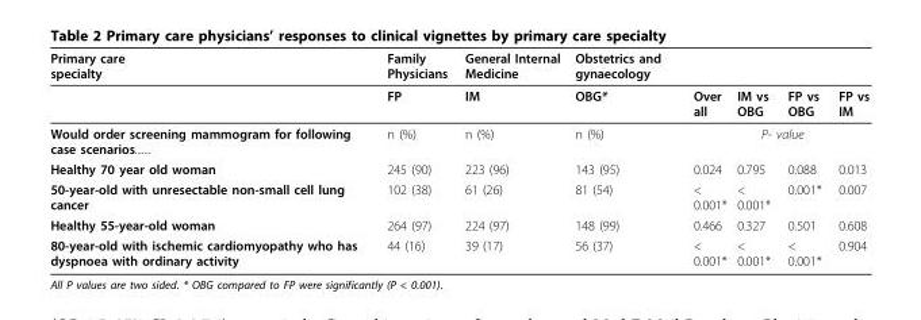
<table><thead><tr><td>Primary care specialty</td><td>Family Physicians</td><td>General Internal Medicine</td><td>Obstetrics and gynaecology</td><td></td><td></td><td></td><td></td></tr></thead><tbody><tr><td></td><td>FP</td><td>IM</td><td>OBG*</td><td>Over all</td><td>IM vs OBG</td><td>FP vs OBG</td><td>FP vs IM</td></tr><tr><td>Would order screening mammogram for following case scenarios.......</td><td>n (%)</td><td>n (%)</td><td>n (%)</td><td colspan="4">P- value</td></tr><tr><td>Healthy 70 year old woman</td><td>245 (90)</td><td>223 (96)</td><td>143 (95)</td><td>0.024</td><td>0.795</td><td>0.088</td><td>0.013</td></tr><tr><td>50-year-old with unresectable non-small cell lung cancer</td><td>102 (38)</td><td>61 (26)</td><td>81 (54)</td><td>&lt; 0.001*</td><td>&lt; 0.001*</td><td>0.001*</td><td>0.007</td></tr><tr><td>Healthy 55-year-old woman</td><td>264 (97)</td><td>224 (97)</td><td>148 (99)</td><td>0.466</td><td>0.327</td><td>0.501</td><td>0.608</td></tr><tr><td>80-year-old with ischemic cardiomyopathy who has dyspnoea with ordinary activity</td><td>44 (16)</td><td>39 (17)</td><td>56 (37)</td><td>&lt; 0.001*</td><td>&lt; 0.001*</td><td>&lt; 0.001*</td><td>0.904</td></tr></tbody></table>